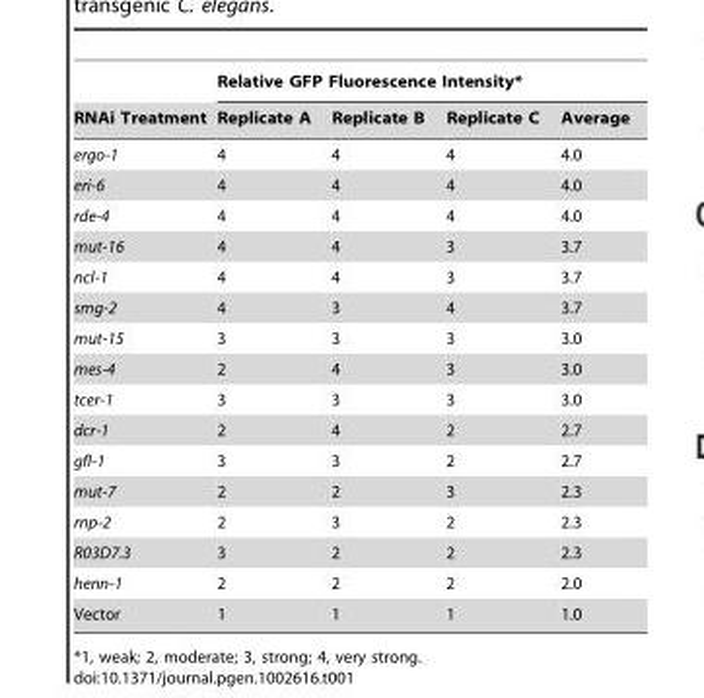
<table><thead><tr><td rowspan="2">RNAi Treatment</td><td colspan="4">Relative GFP Fluorescence Intensity*</td></tr><tr><td>Replicate A</td><td>Replicate B</td><td>Replicate C</td><td>Average</td></tr></thead><tbody><tr><td>ergo-1</td><td>4</td><td>4</td><td>4</td><td>4.0</td></tr><tr><td>eri-6</td><td>4</td><td>4</td><td>4</td><td>4.0</td></tr><tr><td>rde-4</td><td>4</td><td>4</td><td>4</td><td>4.0</td></tr><tr><td>mut-16</td><td>4</td><td>4</td><td>3</td><td>3.7</td></tr><tr><td>ncl-1</td><td>4</td><td>4</td><td>3</td><td>3.7</td></tr><tr><td>smg-2</td><td>4</td><td>3</td><td>4</td><td>3.7</td></tr><tr><td>mut-15</td><td>3</td><td>3</td><td>3</td><td>3.0</td></tr><tr><td>mes-4</td><td>2</td><td>4</td><td>3</td><td>3.0</td></tr><tr><td>tcer-1</td><td>3</td><td>3</td><td>3</td><td>3.0</td></tr><tr><td>dcr-1</td><td>2</td><td>4</td><td>2</td><td>2.7</td></tr><tr><td>gfl-1</td><td>3</td><td>3</td><td>2</td><td>2.7</td></tr><tr><td>mut-7</td><td>2</td><td>2</td><td>3</td><td>2.3</td></tr><tr><td>rnp-2</td><td>2</td><td>3</td><td>2</td><td>2.3</td></tr><tr><td>R03D7.3</td><td>3</td><td>2</td><td>2</td><td>2.3</td></tr><tr><td>henn-1</td><td>2</td><td>2</td><td>2</td><td>2.0</td></tr><tr><td>Vector</td><td>1</td><td>1</td><td>1</td><td>1.0</td></tr></tbody></table>